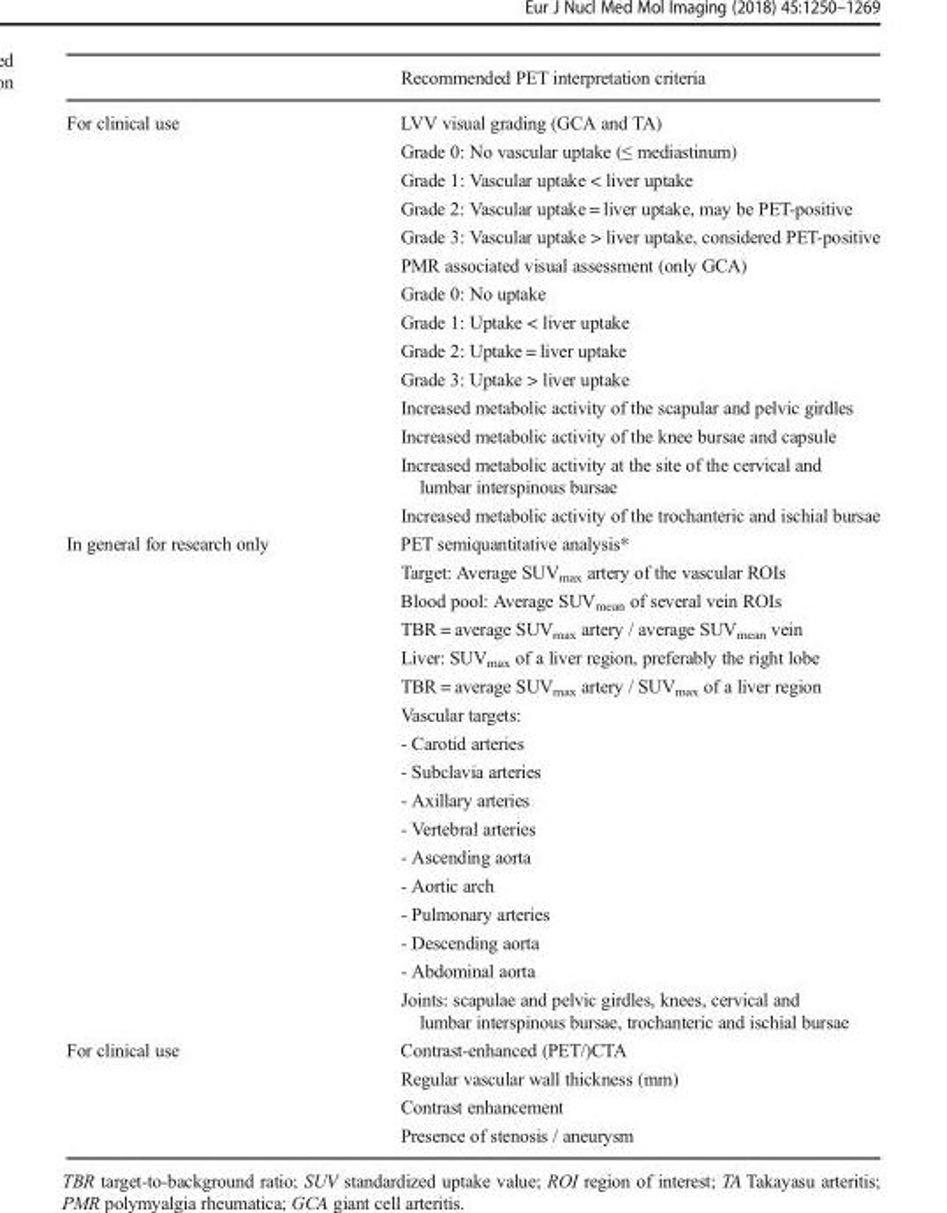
<table><thead><tr><td></td><td>Recommended PET interpretation criteria</td></tr></thead><tbody><tr><td rowspan="2">For clinical use</td><td>LVV visual grading (GCA and TA) Grade 0: No vascular uptake (≤ mediastinum) Grade 1: Vascular uptake &lt; liver uptake Grade 2: Vascular uptake = liver uptake, may be PET-positive Grade 3: Vascular uptake &gt; liver uptake, considered PET-positive</td></tr><tr><td>PMR associated visual assessment (only GCA) Grade 0: No uptake Grade 1: Uptake &lt; liver uptake Grade 2: Uptake = liver uptake Grade 3: Uptake &gt; liver uptake Increased metabolic activity of the scapular and pelvic girdles Increased metabolic activity of the knee bursae and capsule Increased metabolic activity at the site of the cervical and lumbar interspinous bursae Increased metabolic activity of the trochanteric and ischial bursae</td></tr><tr><td>In general for research only</td><td>PET semiquantitative analysis* Target: Average SUV<sub>max</sub> artery of the vascular ROIs Blood pool: Average SUV<sub>mean</sub> of several vein ROIs TBR = average SUV<sub>max</sub> artery / average SUV<sub>mean</sub> vein Liver: SUV<sub>max</sub> of a liver region, preferably the right lobe TBR = average SUV<sub>max</sub> artery / SUV<sub>max</sub> of a liver region Vascular targets: - Carotid arteries - Subclavia arteries - Axillary arteries - Vertebral arteries - Ascending aorta - Aortic arch - Pulmonary arteries - Descending aorta - Abdominal aorta Joints: scapulae and pelvic girdles, knees, cervical and lumbar interspinous bursae, trochanteric and ischial bursae</td></tr><tr><td>For clinical use</td><td>Contrast-enhanced (PET/)CTA Regular vascular wall thickness (mm) Contrast enhancement Presence of stenosis / aneurysm</td></tr></tbody></table>